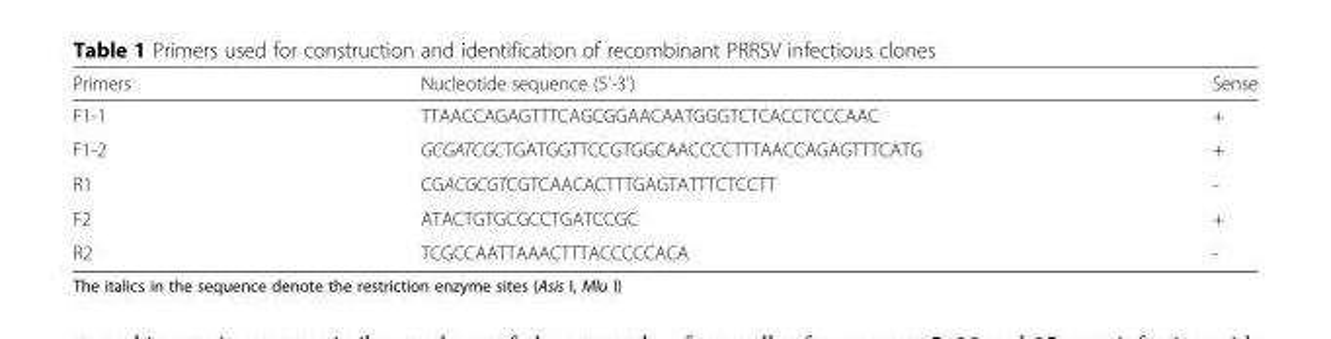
<table><thead><tr><td>Primers</td><td>Nucleotide sequence (5&#x27;-3&#x27;)</td><td>Sense</td></tr></thead><tbody><tr><td>F1-1</td><td>TTAACCAGAGTTTCAGCGGAACAATGGGTCTCACCTCCCAAC</td><td>+</td></tr><tr><td>F1-2</td><td>GCGATCGCTGATGGTTCCGTGGCAACCCCTTTAACCAGAGTTTCATG</td><td>+</td></tr><tr><td>R1</td><td>CGACGCGTCGTCAACACTTTGAGTATTTCTCCTT</td><td>-</td></tr><tr><td>F2</td><td>ATACTGTGCGCCTGATCCGC</td><td>+</td></tr><tr><td>R2</td><td>TCGCCAATTAAACTTTACCCCCACA</td><td>-</td></tr></tbody></table>